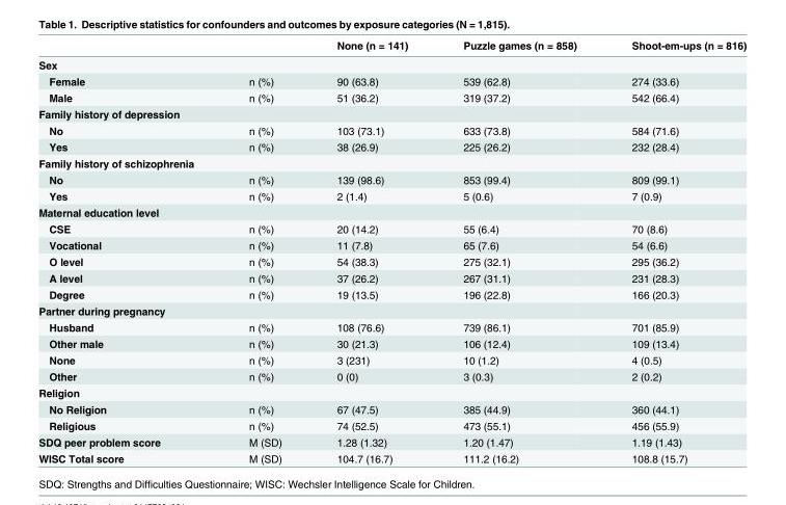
<table><thead><tr><td></td><td></td><td>None (n = 141)</td><td>Puzzle games (n = 858)</td><td>Shoot-em-ups (n = 816)</td></tr></thead><tbody><tr><td colspan="5">Sex</td></tr><tr><td>Female</td><td>n (%)</td><td>90 (63.8)</td><td>539 (62.8)</td><td>274 (33.6)</td></tr><tr><td>Male</td><td>n (%)</td><td>51 (36.2)</td><td>319 (37.2)</td><td>542 (66.4)</td></tr><tr><td colspan="5">Family history of depression</td></tr><tr><td>No</td><td>n (%)</td><td>103 (73.1)</td><td>633 (73.8)</td><td>584 (71.6)</td></tr><tr><td>Yes</td><td>n (%)</td><td>38 (26.9)</td><td>225 (26.2)</td><td>232 (28.4)</td></tr><tr><td colspan="5">Family history of schizophrenia</td></tr><tr><td>No</td><td>n (%)</td><td>139 (98.6)</td><td>853 (99.4)</td><td>809 (99.1)</td></tr><tr><td>Yes</td><td>n (%)</td><td>2 (1.4)</td><td>5 (0.6)</td><td>7 (0.9)</td></tr><tr><td colspan="5">Maternal education level</td></tr><tr><td>CSE</td><td>n (%)</td><td>20 (14.2)</td><td>55 (6.4)</td><td>70 (8.6)</td></tr><tr><td>Vocational</td><td>n (%)</td><td>11 (7.8)</td><td>65 (7.6)</td><td>54 (6.6)</td></tr><tr><td>O level</td><td>n (%)</td><td>54 (38.3)</td><td>275 (32.1)</td><td>295 (36.2)</td></tr><tr><td>A level</td><td>n (%)</td><td>37 (26.2)</td><td>267 (31.1)</td><td>231 (28.3)</td></tr><tr><td>Degree</td><td>n (%)</td><td>19 (13.5)</td><td>196 (22.8)</td><td>166 (20.3)</td></tr><tr><td colspan="5">Partner during pregnancy</td></tr><tr><td>Husband</td><td>n (%)</td><td>108 (76.6)</td><td>739 (86.1)</td><td>701 (85.9)</td></tr><tr><td>Other male</td><td>n (%)</td><td>30 (21.3)</td><td>106 (12.4)</td><td>109 (13.4)</td></tr><tr><td>None</td><td>n (%)</td><td>3 (231)</td><td>10 (1.2)</td><td>4 (0.5)</td></tr><tr><td>Other</td><td>n (%)</td><td>0 (0)</td><td>3 (0.3)</td><td>2 (0.2)</td></tr><tr><td colspan="5">Religion</td></tr><tr><td>No Religion</td><td>n (%)</td><td>67 (47.5)</td><td>385 (44.9)</td><td>360 (44.1)</td></tr><tr><td>Religious</td><td>n (%)</td><td>74 (52.5)</td><td>473 (55.1)</td><td>456 (55.9)</td></tr><tr><td>SDQ peer problem score</td><td>M (SD)</td><td>1.28 (1.32)</td><td>1.20 (1.47)</td><td>1.19 (1.43)</td></tr><tr><td>WISC Total score</td><td>M (SD)</td><td>104.7 (16.7)</td><td>111.2 (16.2)</td><td>108.8 (15.7)</td></tr></tbody></table>